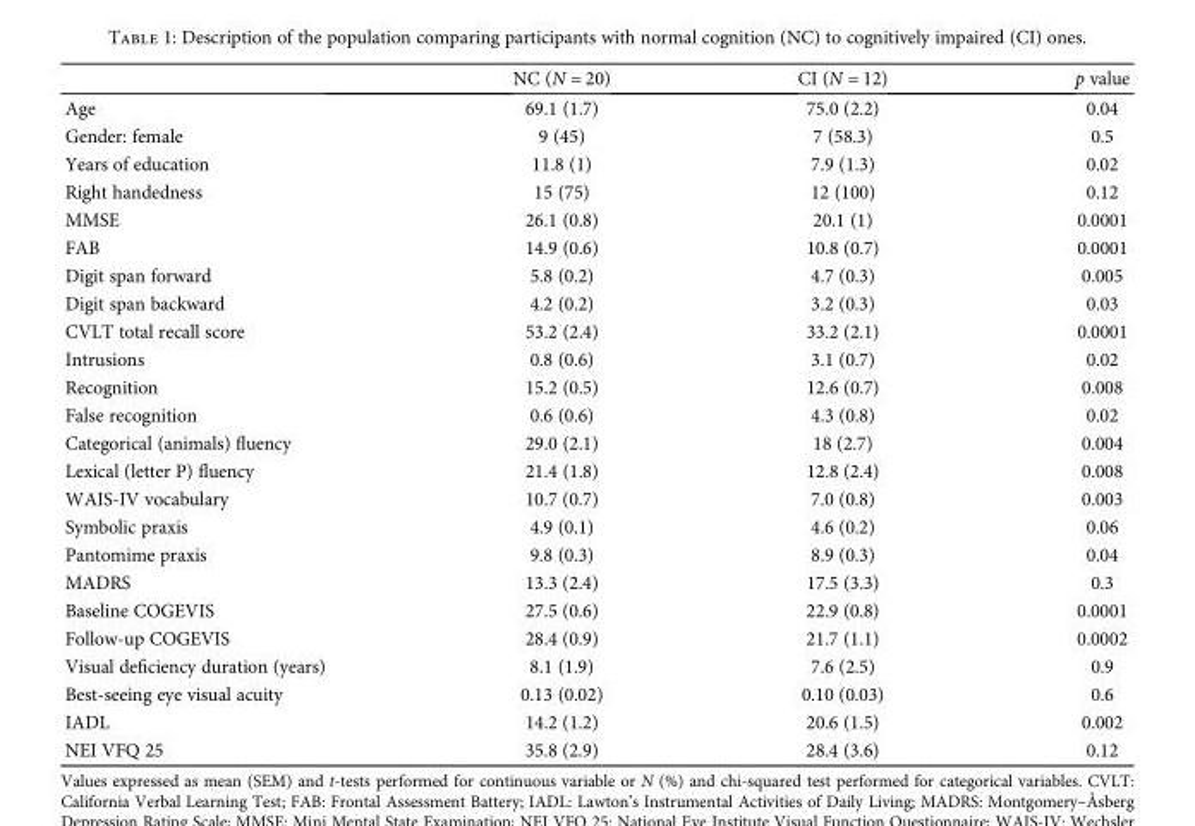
<table><thead><tr><td></td><td>NC (N = 20)</td><td>CI (N = 12)</td><td>p value</td></tr></thead><tbody><tr><td>Age</td><td>69.1 (1.7)</td><td>75.0 (2.2)</td><td>0.04</td></tr><tr><td>Gender: female</td><td>9 (45)</td><td>7 (58.3)</td><td>0.5</td></tr><tr><td>Years of education</td><td>11.8 (1)</td><td>7.9 (1.3)</td><td>0.02</td></tr><tr><td>Right handedness</td><td>15 (75)</td><td>12 (100)</td><td>0.12</td></tr><tr><td>MMSE</td><td>26.1 (0.8)</td><td>20.1 (1)</td><td>0.0001</td></tr><tr><td>FAB</td><td>14.9 (0.6)</td><td>10.8 (0.7)</td><td>0.0001</td></tr><tr><td>Digit span forward</td><td>5.8 (0.2)</td><td>4.7 (0.3)</td><td>0.005</td></tr><tr><td>Digit span backward</td><td>4.2 (0.2)</td><td>3.2 (0.3)</td><td>0.03</td></tr><tr><td>CVLT total recall score</td><td>53.2 (2.4)</td><td>33.2 (2.1)</td><td>0.0001</td></tr><tr><td>Intrusions</td><td>0.8 (0.6)</td><td>3.1 (0.7)</td><td>0.02</td></tr><tr><td>Recognition</td><td>15.2 (0.5)</td><td>12.6 (0.7)</td><td>0.008</td></tr><tr><td>False recognition</td><td>0.6 (0.6)</td><td>4.3 (0.8)</td><td>0.02</td></tr><tr><td>Categorical (animals) fluency</td><td>29.0 (2.1)</td><td>18 (2.7)</td><td>0.004</td></tr><tr><td>Lexical (letter P) fluency</td><td>21.4 (1.8)</td><td>12.8 (2.4)</td><td>0.008</td></tr><tr><td>WAIS-IV vocabulary</td><td>10.7 (0.7)</td><td>7.0 (0.8)</td><td>0.003</td></tr><tr><td>Symbolic praxis</td><td>4.9 (0.1)</td><td>4.6 (0.2)</td><td>0.06</td></tr><tr><td>Pantomime praxis</td><td>9.8 (0.3)</td><td>8.9 (0.3)</td><td>0.04</td></tr><tr><td>MADRS</td><td>13.3 (2.4)</td><td>17.5 (3.3)</td><td>0.3</td></tr><tr><td>Baseline COGEVIS</td><td>27.5 (0.6)</td><td>22.9 (0.8)</td><td>0.0001</td></tr><tr><td>Follow-up COGEVIS</td><td>28.4 (0.9)</td><td>21.7 (1.1)</td><td>0.0002</td></tr><tr><td>Visual deficiency duration (years)</td><td>8.1 (1.9)</td><td>7.6 (2.5)</td><td>0.9</td></tr><tr><td>Best-seeing eye visual acuity</td><td>0.13 (0.02)</td><td>0.10 (0.03)</td><td>0.6</td></tr><tr><td>IADL</td><td>14.2 (1.2)</td><td>20.6 (1.5)</td><td>0.002</td></tr><tr><td>NEI VFQ 25</td><td>35.8 (2.9)</td><td>28.4 (3.6)</td><td>0.12</td></tr></tbody></table>